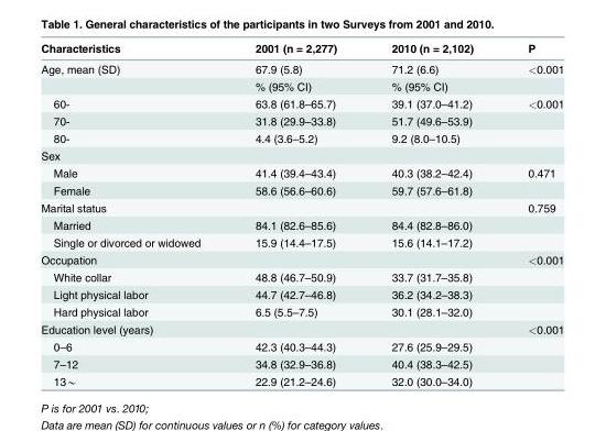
<table><thead><tr><td>Characteristics</td><td>2001 (n = 2,277)</td><td>2010 (n = 2,102)</td><td>P</td></tr></thead><tbody><tr><td rowspan="2">Age, mean (SD)</td><td>67.9 (5.8)</td><td>71.2 (6.6)</td><td>&lt;0.001</td></tr><tr><td>% (95% CI)</td><td>% (95% CI)</td><td></td></tr><tr><td>60-</td><td>63.8 (61.8–65.7)</td><td>39.1 (37.0–41.2)</td><td>&lt;0.001</td></tr><tr><td>70-</td><td>31.8 (29.9–33.8)</td><td>51.7 (49.6–53.9)</td><td></td></tr><tr><td>80-</td><td>4.4 (3.6–5.2)</td><td>9.2 (8.0–10.5)</td><td></td></tr><tr><td colspan="4">Sex</td></tr><tr><td>Male</td><td>41.4 (39.4–43.4)</td><td>40.3 (38.2–42.4)</td><td>0.471</td></tr><tr><td>Female</td><td>58.6 (56.6–60.6)</td><td>59.7 (57.6–61.8)</td><td></td></tr><tr><td>Marital status</td><td></td><td></td><td>0.759</td></tr><tr><td>Married</td><td>84.1 (82.6–85.6)</td><td>84.4 (82.8–86.0)</td><td></td></tr><tr><td>Single or divorced or widowed</td><td>15.9 (14.4–17.5)</td><td>15.6 (14.1–17.2)</td><td></td></tr><tr><td>Occupation</td><td></td><td></td><td>&lt;0.001</td></tr><tr><td>White collar</td><td>48.8 (46.7–50.9)</td><td>33.7 (31.7–35.8)</td><td></td></tr><tr><td>Light physical labor</td><td>44.7 (42.7–46.8)</td><td>36.2 (34.2–38.3)</td><td></td></tr><tr><td>Hard physical labor</td><td>6.5 (5.5–7.5)</td><td>30.1 (28.1–32.0)</td><td></td></tr><tr><td>Education level (years)</td><td></td><td></td><td>&lt;0.001</td></tr><tr><td>0–6</td><td>42.3 (40.3–44.3)</td><td>27.6 (25.9–29.5)</td><td></td></tr><tr><td>7–12</td><td>34.8 (32.9–36.8)</td><td>40.4 (38.3–42.5)</td><td></td></tr><tr><td>13*</td><td>22.9 (21.2–24.6)</td><td>32.0 (30.0–34.0)</td><td></td></tr></tbody></table>